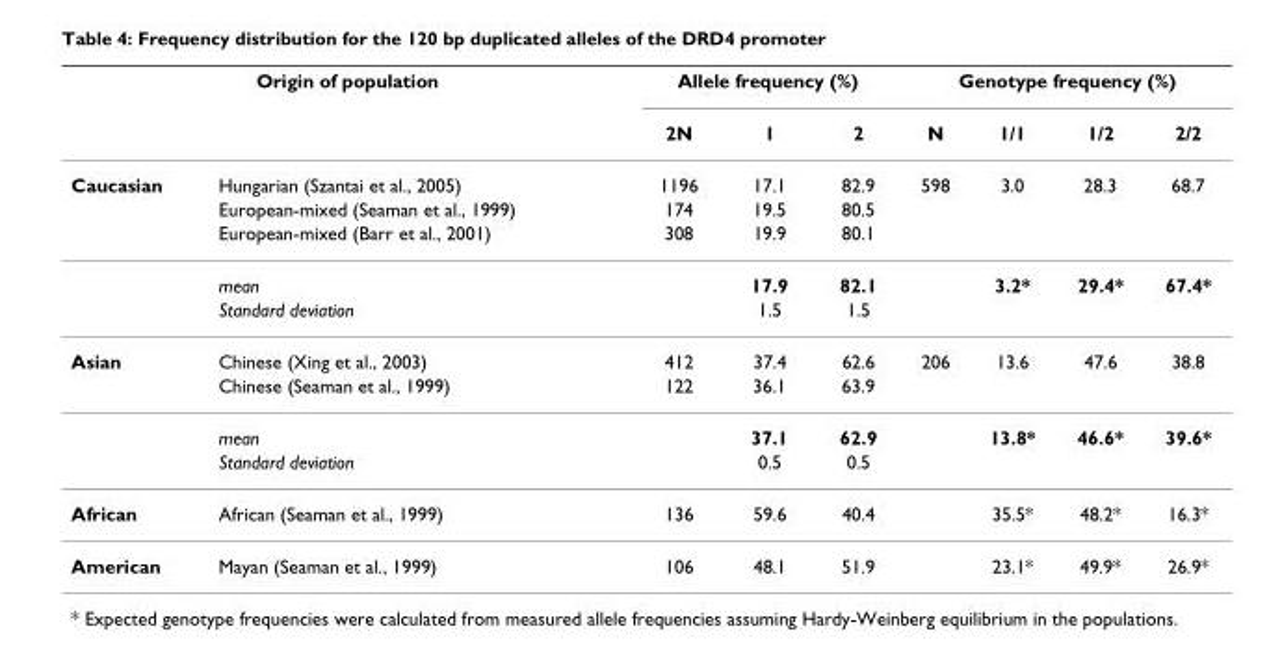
<table><thead><tr><td colspan="2">Origin of population</td><td colspan="3">Allele frequency (%)</td><td colspan="4">Genotype frequency (%)</td></tr><tr><td></td><td></td><td>2N</td><td>1</td><td>2</td><td>N</td><td>1/1</td><td>1/2</td><td>2/2</td></tr></thead><tbody><tr><td rowspan="5">Caucasian</td><td>Hungarian (Szantai et al., 2005)</td><td>1196</td><td>17.1</td><td>82.9</td><td>598</td><td>3.0</td><td>28.3</td><td>68.7</td></tr><tr><td>European-mixed (Seaman et al., 1999)</td><td>174</td><td>19.5</td><td>80.5</td><td></td><td></td><td></td><td></td></tr><tr><td>European-mixed (Barr et al., 2001)</td><td>308</td><td>19.9</td><td>80.1</td><td></td><td></td><td></td><td></td></tr><tr><td>mean</td><td></td><td>17.9</td><td>82.1</td><td></td><td>3.2*</td><td>29.4*</td><td>67.4*</td></tr><tr><td>Standard deviation</td><td></td><td>1.5</td><td>1.5</td><td></td><td></td><td></td><td></td></tr><tr><td rowspan="4">Asian</td><td>Chinese (Xing et al., 2003)</td><td>412</td><td>37.4</td><td>62.6</td><td>206</td><td>13.6</td><td>47.6</td><td>38.8</td></tr><tr><td>Chinese (Seaman et al., 1999)</td><td>122</td><td>36.1</td><td>63.9</td><td></td><td></td><td></td><td></td></tr><tr><td>mean</td><td></td><td>37.1</td><td>62.9</td><td></td><td>13.8*</td><td>46.6*</td><td>39.6*</td></tr><tr><td>Standard deviation</td><td></td><td>0.5</td><td>0.5</td><td></td><td></td><td></td><td></td></tr><tr><td>African</td><td>African (Seaman et al., 1999)</td><td>136</td><td>59.6</td><td>40.4</td><td></td><td>35.5*</td><td>48.2*</td><td>16.3*</td></tr><tr><td>American</td><td>Mayan (Seaman et al., 1999)</td><td>106</td><td>48.1</td><td>51.9</td><td></td><td>23.1*</td><td>49.9*</td><td>26.9*</td></tr></tbody></table>